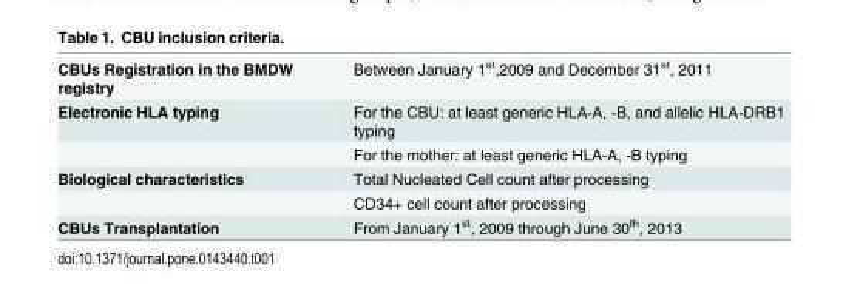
<table><tbody><tr><td>CBUs Registration in the BMDW registry</td><td>Between January 1<sup>st</sup>,2009 and December 31<sup>st</sup>, 2011</td></tr><tr><td rowspan="2">Electronic HLA typing</td><td>For the CBU: at least generic HLA-A, -B, and allelic HLA-DRB1 typing</td></tr><tr><td>For the mother: at least generic HLA-A, -B typing</td></tr><tr><td rowspan="2">Biological characteristics</td><td>Total Nucleated Cell count after processing</td></tr><tr><td>CD34+ cell count after processing</td></tr><tr><td>CBUs Transplantation</td><td>From January 1<sup>st</sup>, 2009 through June 30<sup>th</sup>, 2013</td></tr></tbody></table>